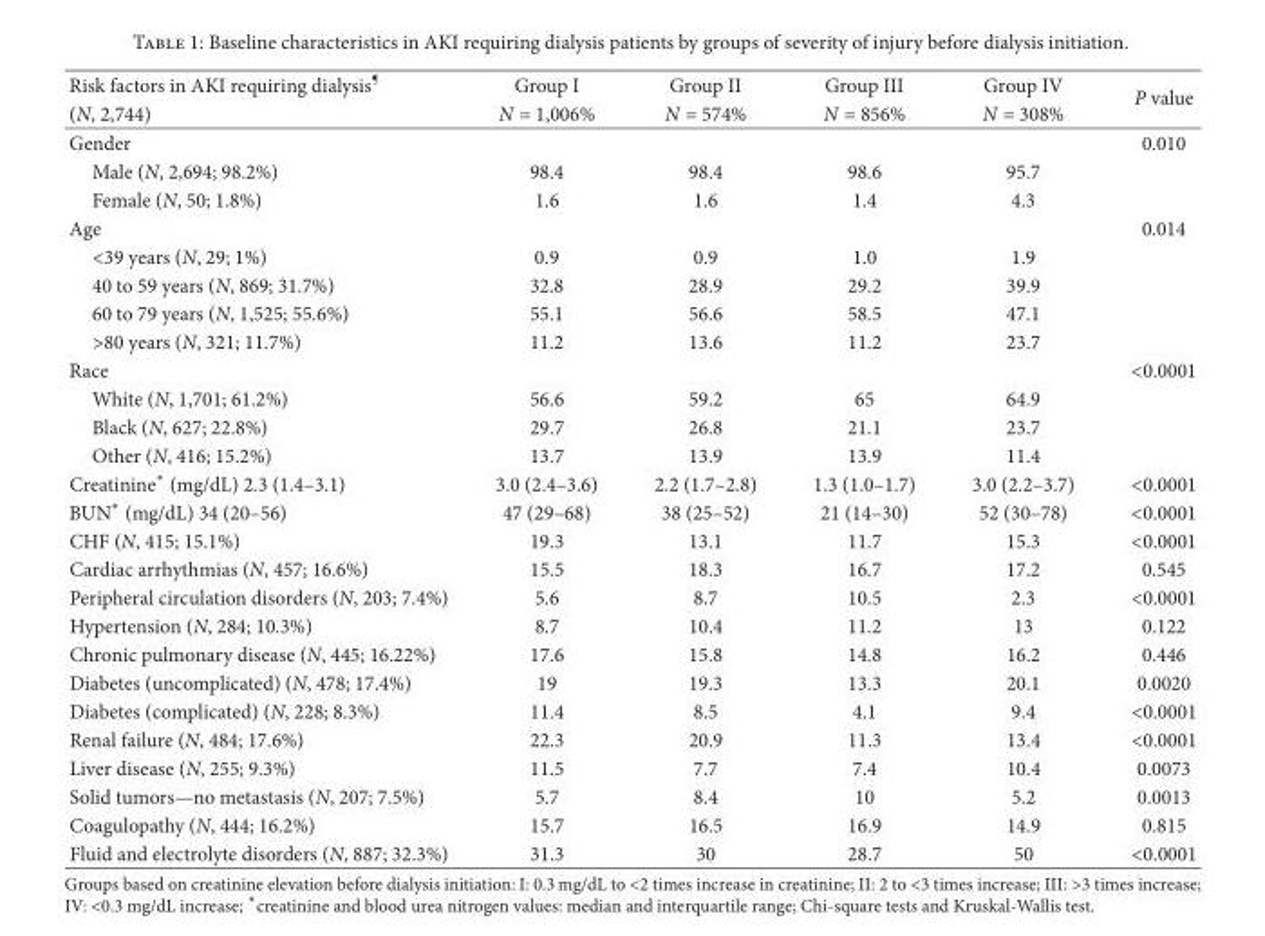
<table><thead><tr><td rowspan="2">Risk factors in AKI requiring dialysis<sup>¶</sup> (N, 2,744)</td><td rowspan="2">Group I N = 1,006%</td><td rowspan="2">Group II N = 574%</td><td rowspan="2">Group III N = 856%</td><td rowspan="2">Group IV N = 308%</td><td rowspan="2">P value</td></tr><tr></tr></thead><tbody><tr><td>Gender</td><td></td><td></td><td></td><td></td><td>0.010</td></tr><tr><td>Male (N, 2,694; 98.2%)</td><td>98.4</td><td>98.4</td><td>98.6</td><td>95.7</td><td></td></tr><tr><td>Female (N, 50; 1.8%)</td><td>1.6</td><td>1.6</td><td>1.4</td><td>4.3</td><td></td></tr><tr><td>Age</td><td></td><td></td><td></td><td></td><td>0.014</td></tr><tr><td>&lt;39 years (N, 29; 1%)</td><td>0.9</td><td>0.9</td><td>1.0</td><td>1.9</td><td></td></tr><tr><td>40 to 59 years (N, 869; 31.7%)</td><td>32.8</td><td>28.9</td><td>29.2</td><td>39.9</td><td></td></tr><tr><td>60 to 79 years (N, 1,525; 55.6%)</td><td>55.1</td><td>56.6</td><td>58.5</td><td>47.1</td><td></td></tr><tr><td>&gt;80 years (N, 321; 11.7%)</td><td>11.2</td><td>13.6</td><td>11.2</td><td>23.7</td><td></td></tr><tr><td>Race</td><td></td><td></td><td></td><td></td><td>&lt;0.0001</td></tr><tr><td>White (N, 1,701; 61.2%)</td><td>56.6</td><td>59.2</td><td>65</td><td>64.9</td><td></td></tr><tr><td>Black (N, 627; 22.8%)</td><td>29.7</td><td>26.8</td><td>21.1</td><td>23.7</td><td></td></tr><tr><td>Other (N, 416; 15.2%)</td><td>13.7</td><td>13.9</td><td>13.9</td><td>11.4</td><td></td></tr><tr><td>Creatinine∗ (mg/dL) 2.3 (1.4–3.1)</td><td>3.0 (2.4–3.6)</td><td>2.2 (1.7–2.8)</td><td>1.3 (1.0–1.7)</td><td>3.0 (2.2–3.7)</td><td>&lt;0.0001</td></tr><tr><td>BUN∗ (mg/dL) 34 (20–56)</td><td>47 (29–68)</td><td>38 (25–52)</td><td>21 (14–30)</td><td>52 (30–78)</td><td>&lt;0.0001</td></tr><tr><td>CHF (N, 415; 15.1%)</td><td>19.3</td><td>13.1</td><td>11.7</td><td>15.3</td><td>&lt;0.0001</td></tr><tr><td>Cardiac arrhythmias (N, 457; 16.6%)</td><td>15.5</td><td>18.3</td><td>16.7</td><td>17.2</td><td>0.545</td></tr><tr><td>Peripheral circulation disorders (N, 203; 7.4%)</td><td>5.6</td><td>8.7</td><td>10.5</td><td>2.3</td><td>&lt;0.0001</td></tr><tr><td>Hypertension (N, 284; 10.3%)</td><td>8.7</td><td>10.4</td><td>11.2</td><td>13</td><td>0.122</td></tr><tr><td>Chronic pulmonary disease (N, 445; 16.22%)</td><td>17.6</td><td>15.8</td><td>14.8</td><td>16.2</td><td>0.446</td></tr><tr><td>Diabetes (uncomplicated) (N, 478; 17.4%)</td><td>19</td><td>19.3</td><td>13.3</td><td>20.1</td><td>0.0020</td></tr><tr><td>Diabetes (complicated) (N, 228; 8.3%)</td><td>11.4</td><td>8.5</td><td>4.1</td><td>9.4</td><td>&lt;0.0001</td></tr><tr><td>Renal failure (N, 484; 17.6%)</td><td>22.3</td><td>20.9</td><td>11.3</td><td>13.4</td><td>&lt;0.0001</td></tr><tr><td>Liver disease (N, 255; 9.3%)</td><td>11.5</td><td>7.7</td><td>7.4</td><td>10.4</td><td>0.0073</td></tr><tr><td>Solid tumors—no metastasis (N, 207; 7.5%)</td><td>5.7</td><td>8.4</td><td>10</td><td>5.2</td><td>0.0013</td></tr><tr><td>Coagulopathy (N, 444; 16.2%)</td><td>15.7</td><td>16.5</td><td>16.9</td><td>14.9</td><td>0.815</td></tr><tr><td>Fluid and electrolyte disorders (N, 887; 32.3%)</td><td>31.3</td><td>30</td><td>28.7</td><td>50</td><td>&lt;0.0001</td></tr></tbody></table>